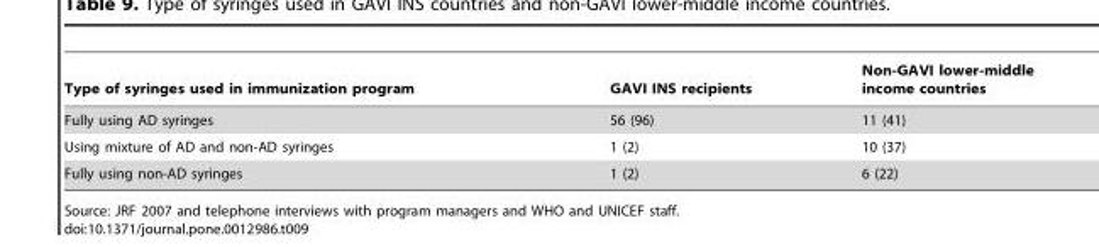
<table><thead><tr><td>Type of syringes used in immunization program</td><td>GAVI INS recipients</td><td>Non-GAVI lower-middle income countries</td></tr></thead><tbody><tr><td>Fully using AD syringes</td><td>56 (96)</td><td>11 (41)</td></tr><tr><td>Using mixture of AD and non-AD syringes</td><td>1 (2)</td><td>10 (37)</td></tr><tr><td>Fully using non-AD syringes</td><td>1 (2)</td><td>6 (22)</td></tr></tbody></table>